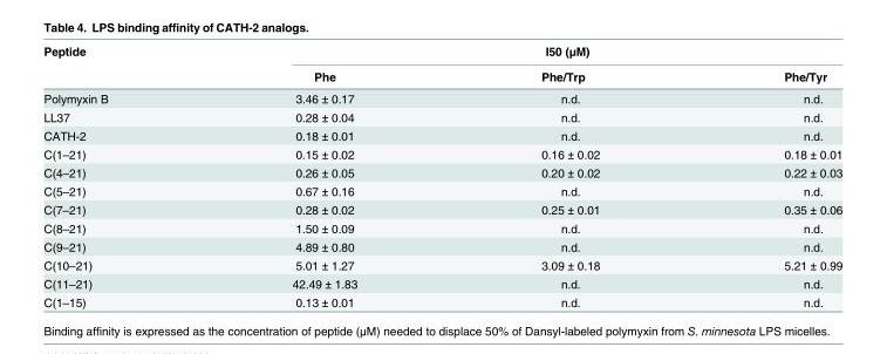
<table><thead><tr><td rowspan="2">Peptide</td><td colspan="3">I50 (μM)</td></tr><tr><td>Phe</td><td>Phe/Trp</td><td>Phe/Tyr</td></tr></thead><tbody><tr><td>Polymyxin B</td><td>3.46 ± 0.17</td><td>n.d.</td><td>n.d.</td></tr><tr><td>LL37</td><td>0.28 ± 0.04</td><td>n.d.</td><td>n.d.</td></tr><tr><td>CATH-2</td><td>0.18 ± 0.01</td><td>n.d.</td><td>n.d.</td></tr><tr><td>C(1–21)</td><td>0.15 ± 0.02</td><td>0.16 ± 0.02</td><td>0.18 ± 0.01</td></tr><tr><td>C(4–21)</td><td>0.26 ± 0.05</td><td>0.20 ± 0.02</td><td>0.22 ± 0.03</td></tr><tr><td>C(5–21)</td><td>0.67 ± 0.16</td><td>n.d.</td><td>n.d.</td></tr><tr><td>C(7–21)</td><td>0.28 ± 0.02</td><td>0.25 ± 0.01</td><td>0.35 ± 0.06</td></tr><tr><td>C(8–21)</td><td>1.50 ± 0.09</td><td>n.d.</td><td>n.d.</td></tr><tr><td>C(9–21)</td><td>4.89 ± 0.80</td><td>n.d.</td><td>n.d.</td></tr><tr><td>C(10–21)</td><td>5.01 ± 1.27</td><td>3.09 ± 0.18</td><td>5.21 ± 0.99</td></tr><tr><td>C(11–21)</td><td>42.49 ± 1.83</td><td>n.d.</td><td>n.d.</td></tr><tr><td>C(1–15)</td><td>0.13 ± 0.01</td><td>n.d.</td><td>n.d.</td></tr></tbody></table>